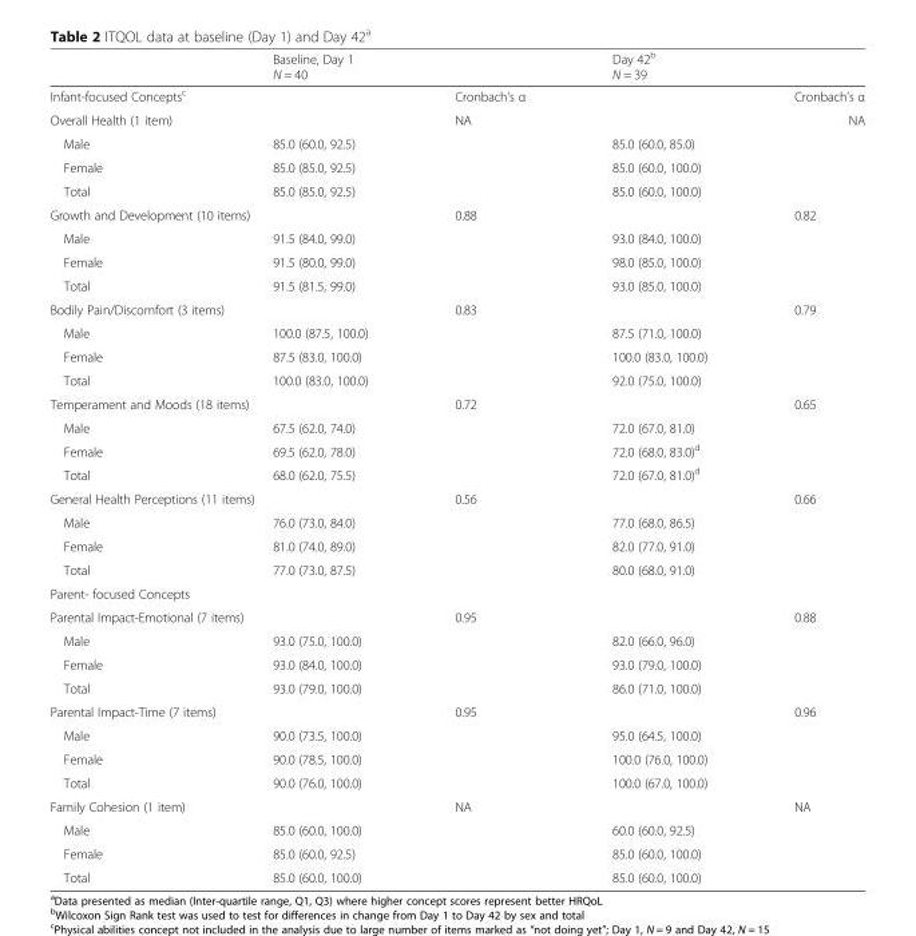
<table><thead><tr><td rowspan="2">Infant-focused Concepts<sup>c</sup></td><td colspan="2">Baseline, Day 1 N = 40</td><td colspan="2">Day 42<sup>b</sup> N = 39</td></tr><tr><td></td><td>Cronbach’s α</td><td></td><td>Cronbach’s α</td></tr></thead><tbody><tr><td>Overall Health (1 item)</td><td></td><td>NA</td><td></td><td>NA</td></tr><tr><td>Male</td><td>85.0 (60.0, 92.5)</td><td></td><td>85.0 (60.0, 85.0)</td><td></td></tr><tr><td>Female</td><td>85.0 (85.0, 92.5)</td><td></td><td>85.0 (60.0, 100.0)</td><td></td></tr><tr><td>Total</td><td>85.0 (85.0, 92.5)</td><td></td><td>85.0 (60.0, 100.0)</td><td></td></tr><tr><td colspan="2">Growth and Development (10 items)</td><td colspan="2">0.88</td><td>0.82</td></tr><tr><td>Male</td><td>91.5 (84.0, 99.0)</td><td></td><td>93.0 (84.0, 100.0)</td><td></td></tr><tr><td>Female</td><td>91.5 (80.0, 99.0)</td><td></td><td>98.0 (85.0, 100.0)</td><td></td></tr><tr><td>Total</td><td>91.5 (81.5, 99.0)</td><td></td><td>93.0 (85.0, 100.0)</td><td></td></tr><tr><td colspan="2">Bodily Pain/Discomfort (3 items)</td><td colspan="2">0.83</td><td>0.79</td></tr><tr><td>Male</td><td>100.0 (87.5, 100.0)</td><td></td><td>87.5 (71.0, 100.0)</td><td></td></tr><tr><td>Female</td><td>87.5 (83.0, 100.0)</td><td></td><td>100.0 (83.0, 100.0)</td><td></td></tr><tr><td>Total</td><td>100.0 (83.0, 100.0)</td><td></td><td>92.0 (75.0, 100.0)</td><td></td></tr><tr><td colspan="2">Temperament and Moods (18 items)</td><td colspan="2">0.72</td><td>0.65</td></tr><tr><td>Male</td><td>67.5 (62.0, 74.0)</td><td></td><td>72.0 (67.0, 81.0)</td><td></td></tr><tr><td>Female</td><td>69.5 (62.0, 78.0)</td><td></td><td>72.0 (68.0, 83.0)<sup>d</sup></td><td></td></tr><tr><td>Total</td><td>68.0 (62.0, 75.5)</td><td></td><td>72.0 (67.0, 81.0)<sup>d</sup></td><td></td></tr><tr><td colspan="2">General Health Perceptions (11 items)</td><td colspan="2">0.56</td><td>0.66</td></tr><tr><td>Male</td><td>76.0 (73.0, 84.0)</td><td></td><td>77.0 (68.0, 86.5)</td><td></td></tr><tr><td>Female</td><td>81.0 (74.0, 89.0)</td><td></td><td>82.0 (77.0, 91.0)</td><td></td></tr><tr><td>Total</td><td>77.0 (73.0, 87.5)</td><td></td><td>80.0 (68.0, 91.0)</td><td></td></tr><tr><td colspan="5">Parent- focused Concepts</td></tr><tr><td colspan="2">Parental Impact-Emotional (7 items)</td><td colspan="2">0.95</td><td>0.88</td></tr><tr><td>Male</td><td>93.0 (75.0, 100.0)</td><td></td><td>82.0 (66.0, 96.0)</td><td></td></tr><tr><td>Female</td><td>93.0 (84.0, 100.0)</td><td></td><td>93.0 (79.0, 100.0)</td><td></td></tr><tr><td>Total</td><td>93.0 (79.0, 100.0)</td><td></td><td>86.0 (71.0, 100.0)</td><td></td></tr><tr><td colspan="2">Parental Impact-Time (7 items)</td><td colspan="2">0.95</td><td>0.96</td></tr><tr><td>Male</td><td>90.0 (73.5, 100.0)</td><td></td><td>95.0 (64.5, 100.0)</td><td></td></tr><tr><td>Female</td><td>90.0 (78.5, 100.0)</td><td></td><td>100.0 (76.0, 100.0)</td><td></td></tr><tr><td>Total</td><td>90.0 (76.0, 100.0)</td><td></td><td>100.0 (67.0, 100.0)</td><td></td></tr><tr><td colspan="2">Family Cohesion (1 item)</td><td colspan="2">NA</td><td>NA</td></tr><tr><td>Male</td><td>85.0 (60.0, 100.0)</td><td></td><td>60.0 (60.0, 92.5)</td><td></td></tr><tr><td>Female</td><td>85.0 (60.0, 92.5)</td><td></td><td>85.0 (60.0, 100.0)</td><td></td></tr><tr><td>Total</td><td>85.0 (60.0, 100.0)</td><td></td><td>85.0 (60.0, 100.0)</td><td></td></tr></tbody></table>